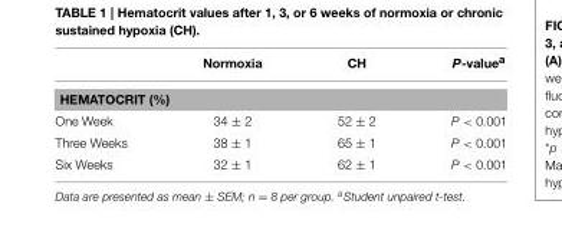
<table><thead><tr><td></td><td>Normoxia</td><td>CH</td><td>P-value<sup>a</sup></td></tr></thead><tbody><tr><td colspan="4">HEMATOCRIT (%)</td></tr><tr><td>One Week</td><td>34 ± 2</td><td>52 ± 2</td><td>P &lt; 0.001</td></tr><tr><td>Three Weeks</td><td>38 ± 1</td><td>65 ± 1</td><td>P &lt; 0.001</td></tr><tr><td>Six Weeks</td><td>32 ± 1</td><td>62 ± 1</td><td>P &lt; 0.001</td></tr></tbody></table>